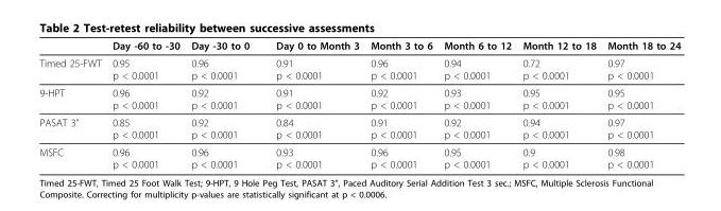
<table><thead><tr><td></td><td>Day -60 to -30</td><td>Day -30 to 0</td><td>Day 0 to Month 3</td><td>Month 3 to 6</td><td>Month 6 to 12</td><td>Month 12 to 18</td><td>Month 18 to 24</td></tr></thead><tbody><tr><td>Timed 25-FWT</td><td>0.95 p &lt; 0.0001</td><td>0.96 p &lt; 0.0001</td><td>0.91 p &lt; 0.0001</td><td>0.96 p &lt; 0.0001</td><td>0.94 p &lt; 0.0001</td><td>0.72 p &lt; 0.0001</td><td>0.97 p &lt; 0.0001</td></tr><tr><td>9-HPT</td><td>0.96 p &lt; 0.0001</td><td>0.92 p &lt; 0.0001</td><td>0.91 p &lt; 0.0001</td><td>0.92 p &lt; 0.0001</td><td>0.93 p &lt; 0.0001</td><td>0.95 p &lt; 0.0001</td><td>0.95 p &lt; 0.0001</td></tr><tr><td>PASAT 3”</td><td>0.85 p &lt; 0.0001</td><td>0.92 p &lt; 0.0001</td><td>0.84 p &lt; 0.0001</td><td>0.91 p &lt; 0.0001</td><td>0.92 p &lt; 0.0001</td><td>0.94 p &lt; 0.0001</td><td>0.97 p &lt; 0.0001</td></tr><tr><td>MSFC</td><td>0.96 p &lt; 0.0001</td><td>0.96 p &lt; 0.0001</td><td>0.93 p &lt; 0.0001</td><td>0.96 p &lt; 0.0001</td><td>0.95 p &lt; 0.0001</td><td>0.9 p &lt; 0.0001</td><td>0.98 p &lt; 0.0001</td></tr></tbody></table>